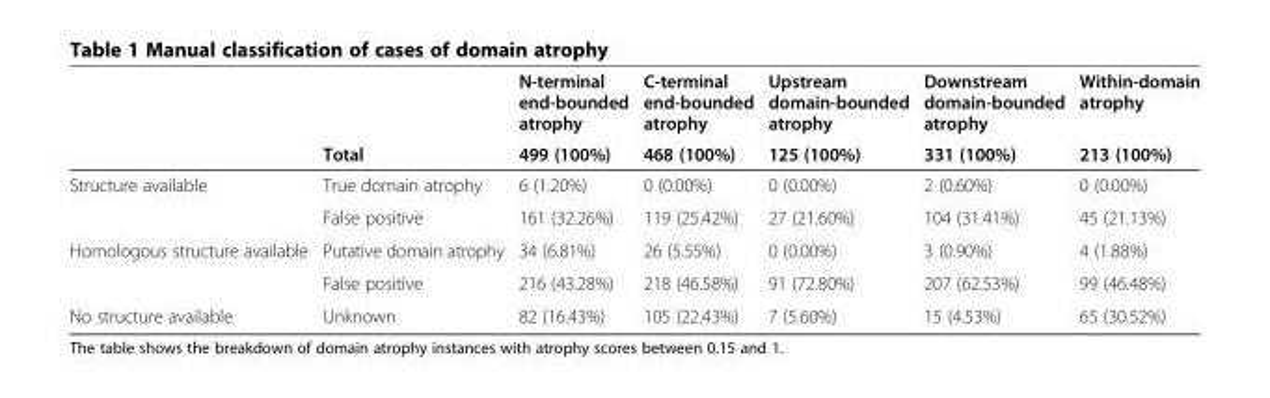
<table><thead><tr><td rowspan="2"></td><td rowspan="2">Total</td><td rowspan="2">N-terminal end-bounded atrophy 499 (100%)</td><td rowspan="2">C-terminal end-bounded atrophy 468 (100%)</td><td rowspan="2">Upstream domain-bounded atrophy 125 (100%)</td><td rowspan="2">Downstream domain-bounded atrophy 331 (100%)</td><td rowspan="2">Within-domain atrophy 213 (100%)</td></tr><tr></tr></thead><tbody><tr><td rowspan="2">Structure available</td><td>True domain atrophy</td><td>6 (1.20%)</td><td>0 (0.00%)</td><td>0 (0.00%)</td><td>2 (0.60%)</td><td>0 (0.00%)</td></tr><tr><td>False positive</td><td>161 (32.26%)</td><td>119 (25.42%)</td><td>27 (21.60%)</td><td>104 (31.41%)</td><td>45 (21.13%)</td></tr><tr><td rowspan="2">Homologous structure available</td><td>Putative domain atrophy</td><td>34 (6.81%)</td><td>26 (5.55%)</td><td>0 (0.00%)</td><td>3 (0.90%)</td><td>4 (1.88%)</td></tr><tr><td>False positive</td><td>216 (43.28%)</td><td>218 (46.58%)</td><td>91 (72.80%)</td><td>207 (62.53%)</td><td>99 (46.48%)</td></tr><tr><td>No structure available</td><td>Unknown</td><td>82 (16.43%)</td><td>105 (22.43%)</td><td>7 (5.60%)</td><td>15 (4.53%)</td><td>65 (30.52%)</td></tr></tbody></table>